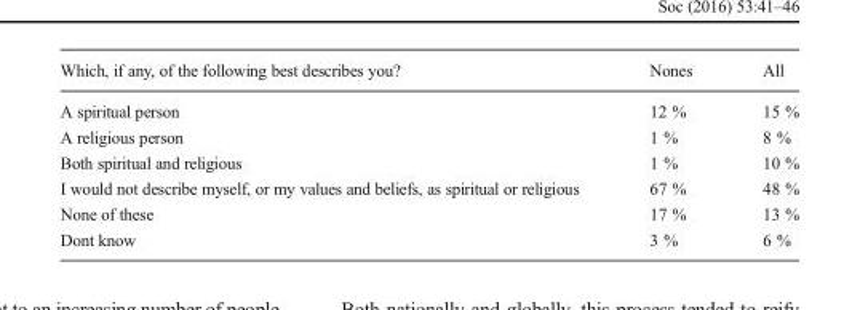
<table><thead><tr><td>Which, if any, of the following best describes you?</td><td>Nones</td><td>All</td></tr></thead><tbody><tr><td>A spiritual person</td><td>12 %</td><td>15 %</td></tr><tr><td>A religious person</td><td>1 %</td><td>8 %</td></tr><tr><td>Both spiritual and religious</td><td>1 %</td><td>10 %</td></tr><tr><td>I would not describe myself, or my values and beliefs, as spiritual or religious</td><td>67 %</td><td>48 %</td></tr><tr><td>None of these</td><td>17 %</td><td>13 %</td></tr><tr><td>Dont know</td><td>3 %</td><td>6 %</td></tr></tbody></table>